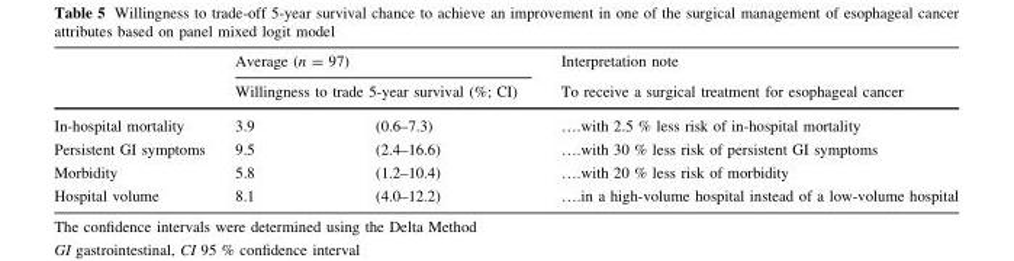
<table><thead><tr><td rowspan="3">In-hospital mortality</td><td rowspan="2" colspan="2">Average (n = 97) Willingness to trade 5-year survival (%; CI)</td><td rowspan="3">Interpretation note To receive a surgical treatment for esophageal cancer ….with 2.5 % less risk of in-hospital mortality</td></tr><tr></tr><tr><td>3.9</td><td>(0.6–7.3)</td></tr></thead><tbody><tr><td>Persistent GI symptoms</td><td>9.5</td><td>(2.4–16.6)</td><td>….with 30 % less risk of persistent GI symptoms</td></tr><tr><td>Morbidity</td><td>5.8</td><td>(1.2–10.4)</td><td>….with 20 % less risk of morbidity</td></tr><tr><td>Hospital volume</td><td>8.1</td><td>(4.0–12.2)</td><td>….in a high-volume hospital instead of a low-volume hospital</td></tr></tbody></table>